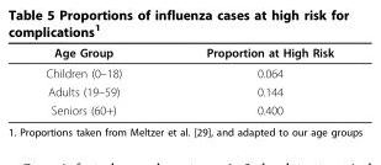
<table><thead><tr><td>Age Group</td><td>Proportion at High Risk</td></tr></thead><tbody><tr><td>Children (0–18)</td><td>0.064</td></tr><tr><td>Adults (19–59)</td><td>0.144</td></tr><tr><td>Seniors (60+)</td><td>0.400</td></tr></tbody></table>